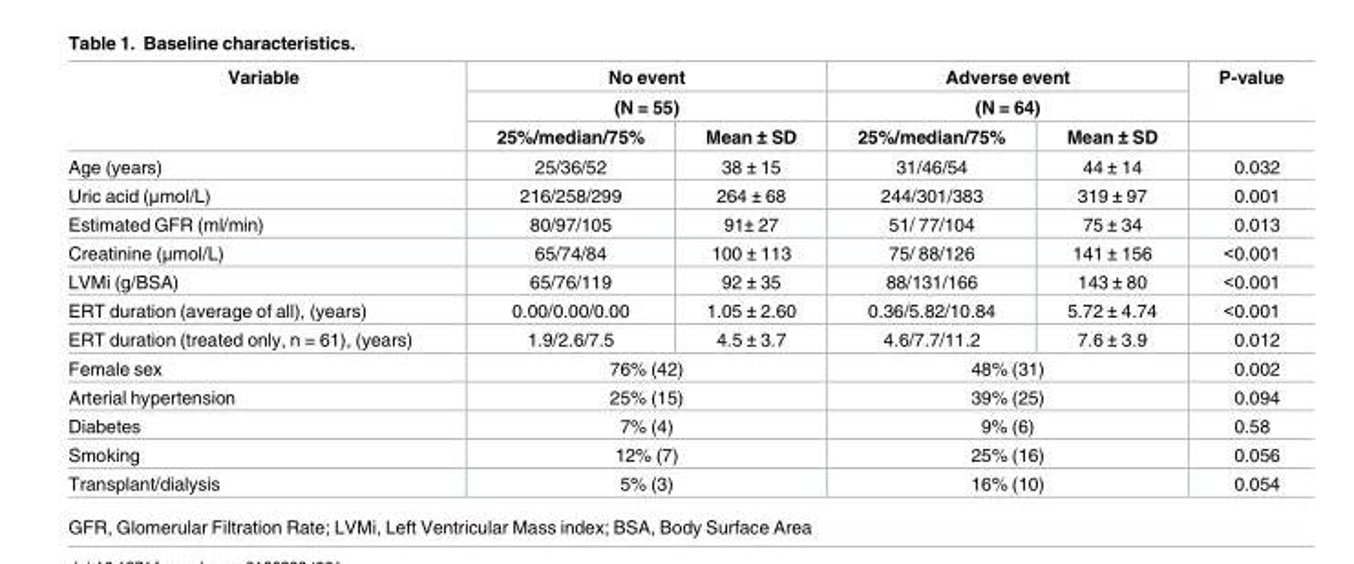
<table><thead><tr><td rowspan="3">Variable</td><td rowspan="2" colspan="2">No event (N = 55)</td><td rowspan="2" colspan="2">Adverse event (N = 64)</td><td rowspan="3">P-value</td></tr><tr></tr><tr><td>25%/median/75%</td><td>Mean ± SD</td><td>25%/median/75%</td><td>Mean ± SD</td></tr></thead><tbody><tr><td>Age (years)</td><td>25/36/52</td><td>38 ± 15</td><td>31/46/54</td><td>44 ± 14</td><td>0.032</td></tr><tr><td>Uric acid (μmol/L)</td><td>216/258/299</td><td>264 ± 68</td><td>244/301/383</td><td>319 ± 97</td><td>0.001</td></tr><tr><td>Estimated GFR (ml/min)</td><td>80/97/105</td><td>91± 27</td><td>51/ 77/104</td><td>75 ± 34</td><td>0.013</td></tr><tr><td>Creatinine (μmol/L)</td><td>65/74/84</td><td>100 ± 113</td><td>75/ 88/126</td><td>141 ± 156</td><td>&lt;0.001</td></tr><tr><td>LVMi (g/BSA)</td><td>65/76/119</td><td>92 ± 35</td><td>88/131/166</td><td>143 ± 80</td><td>&lt;0.001</td></tr><tr><td>ERT duration (average of all), (years)</td><td>0.00/0.00/0.00</td><td>1.05 ± 2.60</td><td>0.36/5.82/10.84</td><td>5.72 ± 4.74</td><td>&lt;0.001</td></tr><tr><td>ERT duration (treated only, n = 61), (years)</td><td>1.9/2.6/7.5</td><td>4.5 ± 3.7</td><td>4.6/7.7/11.2</td><td>7.6 ± 3.9</td><td>0.012</td></tr><tr><td>Female sex</td><td colspan="2">76% (42)</td><td colspan="2">48% (31)</td><td>0.002</td></tr><tr><td>Arterial hypertension</td><td colspan="2">25% (15)</td><td colspan="2">39% (25)</td><td>0.094</td></tr><tr><td>Diabetes</td><td colspan="2">7% (4)</td><td colspan="2">9% (6)</td><td>0.58</td></tr><tr><td>Smoking</td><td colspan="2">12% (7)</td><td colspan="2">25% (16)</td><td>0.056</td></tr><tr><td>Transplant/dialysis</td><td colspan="2">5% (3)</td><td colspan="2">16% (10)</td><td>0.054</td></tr></tbody></table>